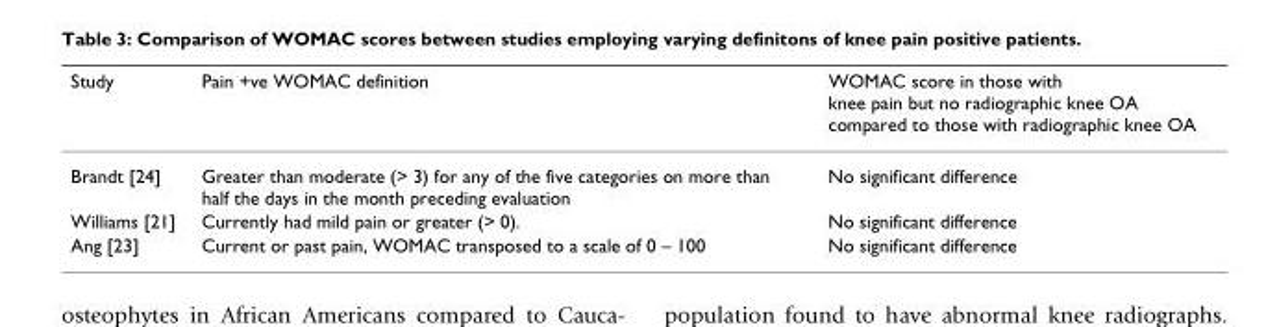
<table><thead><tr><td>Study</td><td>Pain +ve WOMAC definition</td><td>WOMAC score in those with knee pain but no radiographic knee OA compared to those with radiographic knee OA</td></tr></thead><tbody><tr><td>Brandt [24]</td><td>Greater than moderate (&gt; 3) for any of the five categories on more than half the days in the month preceding evaluation</td><td>No significant difference</td></tr><tr><td>Williams [21]</td><td>Currently had mild pain or greater (&gt; 0).</td><td>No significant difference</td></tr><tr><td>Ang [23]</td><td>Current or past pain, WOMAC transposed to a scale of 0 – 100</td><td>No significant difference</td></tr></tbody></table>